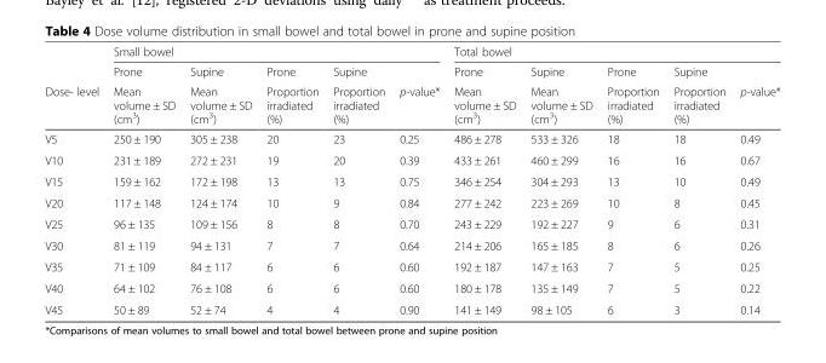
<table><thead><tr><td rowspan="3">Dose- level</td><td colspan="5">Small bowel</td><td colspan="5">Total bowel</td></tr><tr><td rowspan="2">Prone Mean volume ± SD (cm<sup>3</sup>)</td><td rowspan="2">Supine Mean volume ± SD (cm<sup>3</sup>)</td><td rowspan="2">Prone Proportion irradiated (%)</td><td rowspan="2">Supine Proportion irradiated (%)</td><td rowspan="2">p-value*</td><td rowspan="2">Prone Mean volume ± SD (cm<sup>3</sup>)</td><td rowspan="2">Supine Mean volume ± SD (cm<sup>3</sup>)</td><td rowspan="2">Prone Proportion irradiated (%)</td><td rowspan="2">Supine Proportion irradiated (%)</td><td rowspan="2">p-value*</td></tr><tr></tr></thead><tbody><tr><td>V5</td><td>250 ± 190</td><td>305 ± 238</td><td>20</td><td>23</td><td>0.25</td><td>486 ± 278</td><td>533 ± 326</td><td>18</td><td>18</td><td>0.49</td></tr><tr><td>V10</td><td>231 ± 189</td><td>272 ± 231</td><td>19</td><td>20</td><td>0.39</td><td>433 ± 261</td><td>460 ± 299</td><td>16</td><td>16</td><td>0.67</td></tr><tr><td>V15</td><td>159 ± 162</td><td>172 ± 198</td><td>13</td><td>13</td><td>0.75</td><td>346 ± 254</td><td>304 ± 293</td><td>13</td><td>10</td><td>0.49</td></tr><tr><td>V20</td><td>117 ± 148</td><td>124 ± 174</td><td>10</td><td>9</td><td>0.84</td><td>277 ± 242</td><td>223 ± 269</td><td>10</td><td>8</td><td>0.45</td></tr><tr><td>V25</td><td>96 ± 135</td><td>109 ± 156</td><td>8</td><td>8</td><td>0.70</td><td>243 ± 229</td><td>192 ± 227</td><td>9</td><td>6</td><td>0.31</td></tr><tr><td>V30</td><td>81 ± 119</td><td>94 ± 131</td><td>7</td><td>7</td><td>0.64</td><td>214 ± 206</td><td>165 ± 185</td><td>8</td><td>6</td><td>0.26</td></tr><tr><td>V35</td><td>71 ± 109</td><td>84 ± 117</td><td>6</td><td>6</td><td>0.60</td><td>192 ± 187</td><td>147 ± 163</td><td>7</td><td>5</td><td>0.25</td></tr><tr><td>V40</td><td>64 ± 102</td><td>76 ± 108</td><td>6</td><td>6</td><td>0.60</td><td>180 ± 178</td><td>135 ± 149</td><td>7</td><td>5</td><td>0.22</td></tr><tr><td>V45</td><td>50 ± 89</td><td>52 ± 74</td><td>4</td><td>4</td><td>0.90</td><td>141 ± 149</td><td>98 ± 105</td><td>6</td><td>3</td><td>0.14</td></tr></tbody></table>